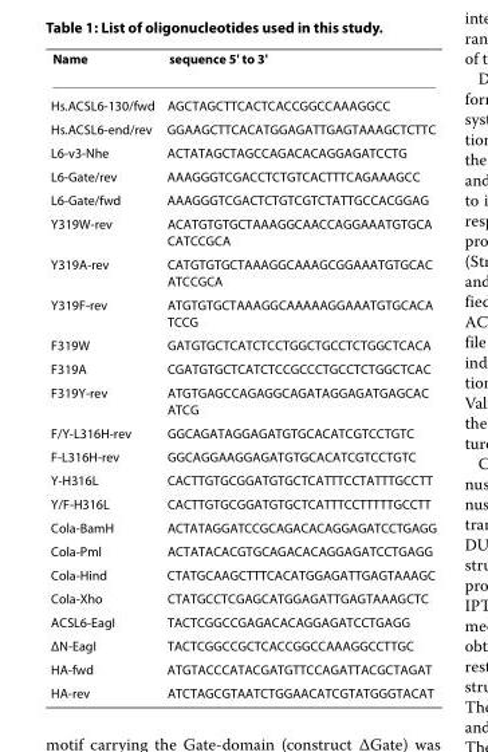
<table><thead><tr><td>Name</td><td>sequence 5&#x27; to 3&#x27;</td></tr></thead><tbody><tr><td>Hs.ACSL6-130/fwd</td><td>AGCTAGCTTCACTCACCGGCCAAAGGCC</td></tr><tr><td>Hs.ACSL6-end/rev</td><td>GGAAGCTTCACATGGAGATTGAGTAAAGCTCTTC</td></tr><tr><td>L6-v3-Nhe</td><td>ACTATAGCTAGCCAGACACAGGAGATCCTG</td></tr><tr><td>L6-Gate/rev</td><td>AAAGGGTCGACCTCTGTCACTTTCAGAAAGCC</td></tr><tr><td>L6-Gate/fwd</td><td>AAAGGGTCGACTCTGTCGTCTATTGCCACGGAG</td></tr><tr><td>Y319W-rev</td><td>ACATGTGTGCTAAAGGCAACCAGGAAATGTGCA CATCCGCA</td></tr><tr><td>Y319A-rev</td><td>CATGTGTGCTAAAGGCAAAGCGGAAATGTGCAC ATCCGCA</td></tr><tr><td>Y319F-rev</td><td>ATGTGTGCTAAAGGCAAAAAGGAAATGTGCACA TCCG</td></tr><tr><td>F319W</td><td>GATGTGCTCATCTCCTGGCTGCCTCTGGCTCACA</td></tr><tr><td>F319A</td><td>CGATGTGCTCATCTCCGCCCTGCCTCTGGCTCAC</td></tr><tr><td>F319Y-rev</td><td>ATGTGAGCCAGAGGCAGATAGGAGATGAGCAC ATCG</td></tr><tr><td>F/Y-L316H-rev</td><td>GGCAGATAGGAGATGTGCACATCGTCCTGTC</td></tr><tr><td>F-L316H-rev</td><td>GGCAGGAAGGAGATGTGCACATCGTCCTGTC</td></tr><tr><td>Y-H316L</td><td>CACTTGTGCGGATGTGCTCATTTCCTATTTGCCTT</td></tr><tr><td>Y/F-H316L</td><td>CACTTGTGCGGATGTGCTCATTTCCTTTTTGCCTT</td></tr><tr><td>Cola-BamH</td><td>ACTATAGGATCCGCAGACACAGGAGATCCTGAGG</td></tr><tr><td>Cola-Pml</td><td>ACTATACACGTGCAGACACAGGAGATCCTGAGG</td></tr><tr><td>Cola-Hind</td><td>CTATGCAAGCTTTCACATGGAGATTGAGTAAAGC</td></tr><tr><td>Cola-Xho</td><td>CTATGCCTCGAGCATGGAGATTGAGTAAAGCTC</td></tr><tr><td>ACSL6-EagI</td><td>TACTCGGCCGAGACACAGGAGATCCTGAGG</td></tr><tr><td>ΔN-EagI</td><td>TACTCGGCCGCTCACCGGCCAAAGGCCTTGC</td></tr><tr><td>HA-fwd</td><td>ATGTACCCATACGATGTTCCAGATTACGCTAGAT</td></tr><tr><td>HA-rev</td><td>ATCTAGCGTAATCTGGAACATCGTATGGGTACAT</td></tr></tbody></table>